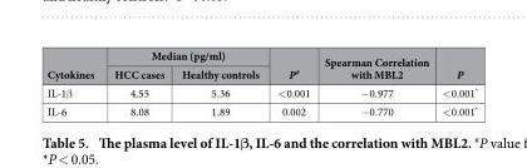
<table><thead><tr><td rowspan="2">Cytokines</td><td colspan="2">Median (pg/ml)</td><td rowspan="2">P<sup>#</sup></td><td rowspan="2">Spearman Correlation with MBL2</td><td rowspan="2">P</td></tr><tr><td>HCC cases</td><td>Healthy controls</td></tr></thead><tbody><tr><td>IL-1β</td><td>4.55</td><td>5.36</td><td>&lt; 0.001</td><td>− 0.977</td><td>&lt; 0.001*</td></tr><tr><td>IL-6</td><td>8.08</td><td>1.89</td><td>0.002</td><td>− 0.770</td><td>&lt; 0.001*</td></tr></tbody></table>